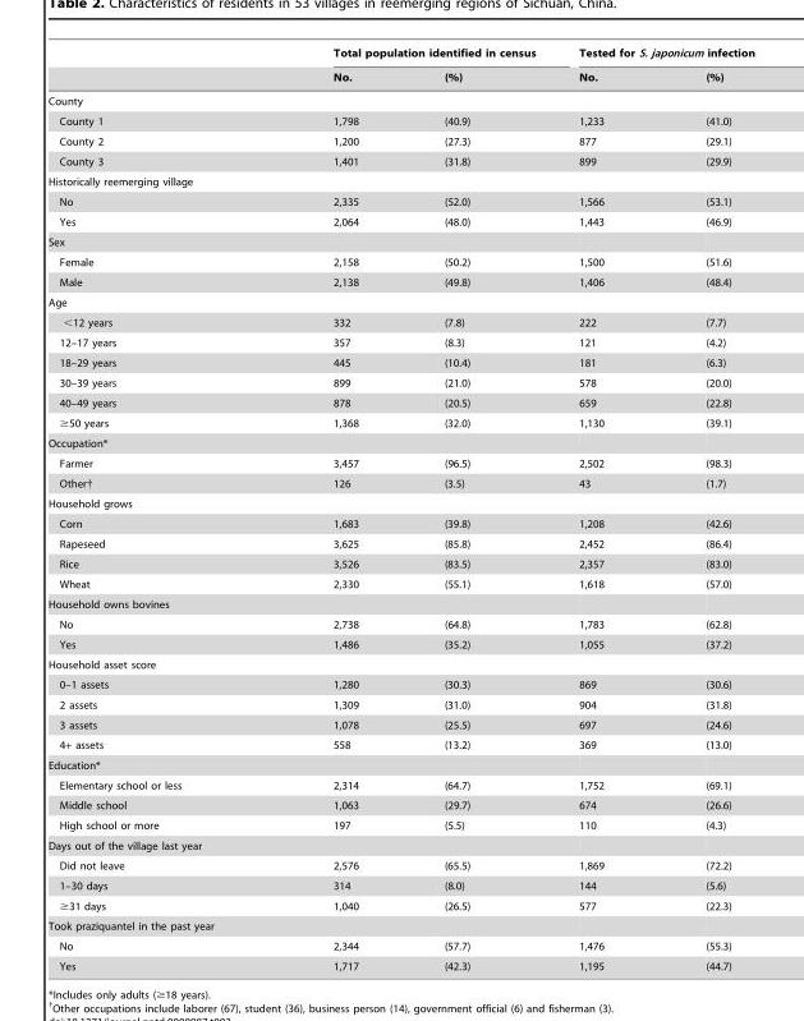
<table><thead><tr><td rowspan="2"></td><td colspan="2">Total population identified in census</td><td colspan="2">Tested for S. japonicum infection</td></tr><tr><td>No.</td><td>(%)</td><td>No.</td><td>(%)</td></tr></thead><tbody><tr><td colspan="5">County</td></tr><tr><td>County 1</td><td>1,798</td><td>(40.9)</td><td>1,233</td><td>(41.0)</td></tr><tr><td>County 2</td><td>1,200</td><td>(27.3)</td><td>877</td><td>(29.1)</td></tr><tr><td>County 3</td><td>1,401</td><td>(31.8)</td><td>899</td><td>(29.9)</td></tr><tr><td colspan="5">Historically reemerging village</td></tr><tr><td>No</td><td>2,335</td><td>(52.0)</td><td>1,566</td><td>(53.1)</td></tr><tr><td>Yes</td><td>2,064</td><td>(48.0)</td><td>1,443</td><td>(46.9)</td></tr><tr><td colspan="5">Sex</td></tr><tr><td>Female</td><td>2,158</td><td>(50.2)</td><td>1,500</td><td>(51.6)</td></tr><tr><td>Male</td><td>2,138</td><td>(49.8)</td><td>1,406</td><td>(48.4)</td></tr><tr><td colspan="5">Age</td></tr><tr><td>&lt;12 years</td><td>332</td><td>(7.8)</td><td>222</td><td>(7.7)</td></tr><tr><td>12–17 years</td><td>357</td><td>(8.3)</td><td>121</td><td>(4.2)</td></tr><tr><td>18–29 years</td><td>445</td><td>(10.4)</td><td>181</td><td>(6.3)</td></tr><tr><td>30–39 years</td><td>899</td><td>(21.0)</td><td>578</td><td>(20.0)</td></tr><tr><td>40–49 years</td><td>878</td><td>(20.5)</td><td>659</td><td>(22.8)</td></tr><tr><td>≥50 years</td><td>1,368</td><td>(32.0)</td><td>1,130</td><td>(39.1)</td></tr><tr><td colspan="5">Occupation*</td></tr><tr><td>Farmer</td><td>3,457</td><td>(96.5)</td><td>2,502</td><td>(98.3)</td></tr><tr><td>Other†</td><td>126</td><td>(3.5)</td><td>43</td><td>(1.7)</td></tr><tr><td colspan="5">Household grows</td></tr><tr><td>Corn</td><td>1,683</td><td>(39.8)</td><td>1,208</td><td>(42.6)</td></tr><tr><td>Rapeseed</td><td>3,625</td><td>(85.8)</td><td>2,452</td><td>(86.4)</td></tr><tr><td>Rice</td><td>3,526</td><td>(83.5)</td><td>2,357</td><td>(83.0)</td></tr><tr><td>Wheat</td><td>2,330</td><td>(55.1)</td><td>1,618</td><td>(57.0)</td></tr><tr><td colspan="5">Household owns bovines</td></tr><tr><td>No</td><td>2,738</td><td>(64.8)</td><td>1,783</td><td>(62.8)</td></tr><tr><td>Yes</td><td>1,486</td><td>(35.2)</td><td>1,055</td><td>(37.2)</td></tr><tr><td colspan="5">Household asset score</td></tr><tr><td>0–1 assets</td><td>1,280</td><td>(30.3)</td><td>869</td><td>(30.6)</td></tr><tr><td>2 assets</td><td>1,309</td><td>(31.0)</td><td>904</td><td>(31.8)</td></tr><tr><td>3 assets</td><td>1,078</td><td>(25.5)</td><td>697</td><td>(24.6)</td></tr><tr><td>4+ assets</td><td>558</td><td>(13.2)</td><td>369</td><td>(13.0)</td></tr><tr><td colspan="5">Education*</td></tr><tr><td>Elementary school or less</td><td>2,314</td><td>(64.7)</td><td>1,752</td><td>(69.1)</td></tr><tr><td>Middle school</td><td>1,063</td><td>(29.7)</td><td>674</td><td>(26.6)</td></tr><tr><td>High school or more</td><td>197</td><td>(5.5)</td><td>110</td><td>(4.3)</td></tr><tr><td colspan="5">Days out of the village last year</td></tr><tr><td>Did not leave</td><td>2,576</td><td>(65.5)</td><td>1,869</td><td>(72.2)</td></tr><tr><td>1–30 days</td><td>314</td><td>(8.0)</td><td>144</td><td>(5.6)</td></tr><tr><td>≥31 days</td><td>1,040</td><td>(26.5)</td><td>577</td><td>(22.3)</td></tr><tr><td colspan="5">Took praziquantel in the past year</td></tr><tr><td>No</td><td>2,344</td><td>(57.7)</td><td>1,476</td><td>(55.3)</td></tr><tr><td>Yes</td><td>1,717</td><td>(42.3)</td><td>1,195</td><td>(44.7)</td></tr></tbody></table>